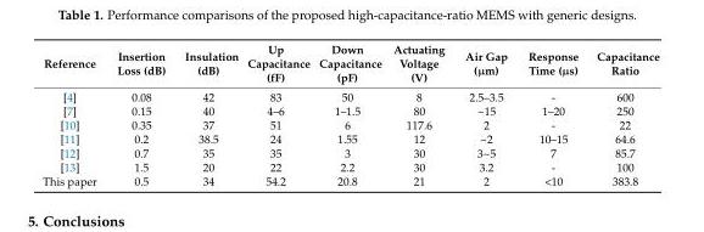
<table><thead><tr><td>Reference</td><td>Insertion Loss (dB)</td><td>Insulation (dB)</td><td>Up Capacitance (fF)</td><td>Down Capacitance (pF)</td><td>Actuating Voltage (V)</td><td>Air Gap (µm)</td><td>Response Time (µs)</td><td>Capacitance Ratio</td></tr></thead><tbody><tr><td>[4]</td><td>0.08</td><td>42</td><td>83</td><td>50</td><td>8</td><td>2.5–3.5</td><td>-</td><td>600</td></tr><tr><td>[7]</td><td>0.15</td><td>40</td><td>4–6</td><td>1–1.5</td><td>80</td><td>~15</td><td>1–20</td><td>250</td></tr><tr><td>[10]</td><td>0.35</td><td>37</td><td>51</td><td>6</td><td>117.6</td><td>2</td><td>-</td><td>22</td></tr><tr><td>[11]</td><td>0.2</td><td>38.5</td><td>24</td><td>1.55</td><td>12</td><td>~2</td><td>10–15</td><td>64.6</td></tr><tr><td>[12]</td><td>0.7</td><td>35</td><td>35</td><td>3</td><td>30</td><td>3~5</td><td>7</td><td>85.7</td></tr><tr><td>[13]</td><td>1.5</td><td>20</td><td>22</td><td>2.2</td><td>30</td><td>3.2</td><td>-</td><td>100</td></tr><tr><td>This paper</td><td>0.5</td><td>34</td><td>54.2</td><td>20.8</td><td>21</td><td>2</td><td>&lt;10</td><td>383.8</td></tr></tbody></table>